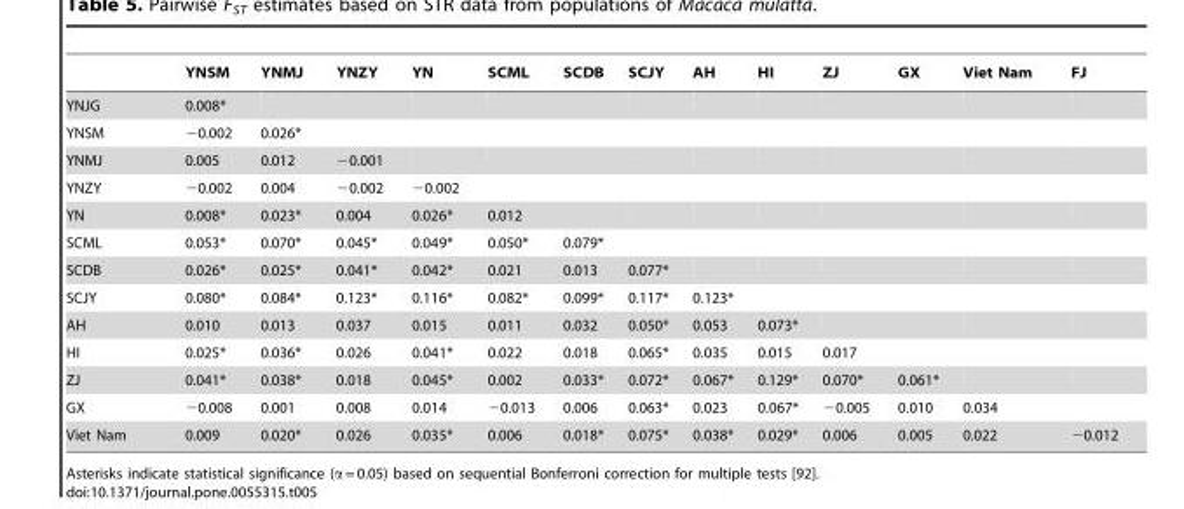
<table><thead><tr><td></td><td>YNSM</td><td>YNMJ</td><td>YNZY</td><td>YN</td><td>SCML</td><td>SCDB</td><td>SCJY</td><td>AH</td><td>HI</td><td>ZJ</td><td>GX</td><td>Viet Nam</td><td>FJ</td></tr></thead><tbody><tr><td>YNJG</td><td>0.008*</td><td></td><td></td><td></td><td></td><td></td><td></td><td></td><td></td><td></td><td></td><td></td><td></td></tr><tr><td>YNSM</td><td>−0.002</td><td>0.026*</td><td></td><td></td><td></td><td></td><td></td><td></td><td></td><td></td><td></td><td></td><td></td></tr><tr><td>YNMJ</td><td>0.005</td><td>0.012</td><td>−0.001</td><td></td><td></td><td></td><td></td><td></td><td></td><td></td><td></td><td></td><td></td></tr><tr><td>YNZY</td><td>−0.002</td><td>0.004</td><td>−0.002</td><td>−0.002</td><td></td><td></td><td></td><td></td><td></td><td></td><td></td><td></td><td></td></tr><tr><td>YN</td><td>0.008*</td><td>0.023*</td><td>0.004</td><td>0.026*</td><td>0.012</td><td></td><td></td><td></td><td></td><td></td><td></td><td></td><td></td></tr><tr><td>SCML</td><td>0.053*</td><td>0.070*</td><td>0.045*</td><td>0.049*</td><td>0.050*</td><td>0.079*</td><td></td><td></td><td></td><td></td><td></td><td></td><td></td></tr><tr><td>SCDB</td><td>0.026*</td><td>0.025*</td><td>0.041*</td><td>0.042*</td><td>0.021</td><td>0.013</td><td>0.077*</td><td></td><td></td><td></td><td></td><td></td><td></td></tr><tr><td>SCJY</td><td>0.080*</td><td>0.084*</td><td>0.123*</td><td>0.116*</td><td>0.082*</td><td>0.099*</td><td>0.117*</td><td>0.123*</td><td></td><td></td><td></td><td></td><td></td></tr><tr><td>AH</td><td>0.010</td><td>0.013</td><td>0.037</td><td>0.015</td><td>0.011</td><td>0.032</td><td>0.050*</td><td>0.053</td><td>0.073*</td><td></td><td></td><td></td><td></td></tr><tr><td>HI</td><td>0.025*</td><td>0.036*</td><td>0.026</td><td>0.041*</td><td>0.022</td><td>0.018</td><td>0.065*</td><td>0.035</td><td>0.015</td><td>0.017</td><td></td><td></td><td></td></tr><tr><td>ZJ</td><td>0.041*</td><td>0.038*</td><td>0.018</td><td>0.045*</td><td>0.002</td><td>0.033*</td><td>0.072*</td><td>0.067*</td><td>0.129*</td><td>0.070*</td><td>0.061*</td><td></td><td></td></tr><tr><td>GX</td><td>−0.008</td><td>0.001</td><td>0.008</td><td>0.014</td><td>−0.013</td><td>0.006</td><td>0.063*</td><td>0.023</td><td>0.067*</td><td>−0.005</td><td>0.010</td><td>0.034</td><td></td></tr><tr><td>Viet Nam</td><td>0.009</td><td>0.020*</td><td>0.026</td><td>0.035*</td><td>0.006</td><td>0.018*</td><td>0.075*</td><td>0.038*</td><td>0.029*</td><td>0.006</td><td>0.005</td><td>0.022</td><td>−0.012</td></tr></tbody></table>